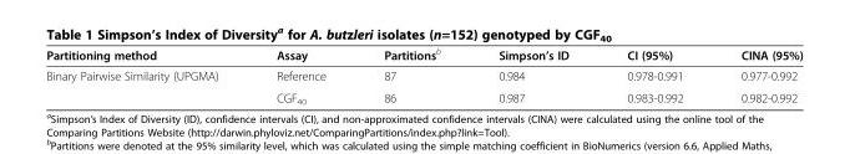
<table><thead><tr><td>Partitioning method</td><td>Assay</td><td>Partitions<sup>b</sup></td><td>Simpson’s ID</td><td>CI (95%)</td><td>CINA (95%)</td></tr></thead><tbody><tr><td rowspan="2">Binary Pairwise Similarity (UPGMA)</td><td>Reference</td><td>87</td><td>0.984</td><td>0.978-0.991</td><td>0.977-0.992</td></tr><tr><td>CGF<sub>40</sub></td><td>86</td><td>0.987</td><td>0.983-0.992</td><td>0.982-0.992</td></tr></tbody></table>